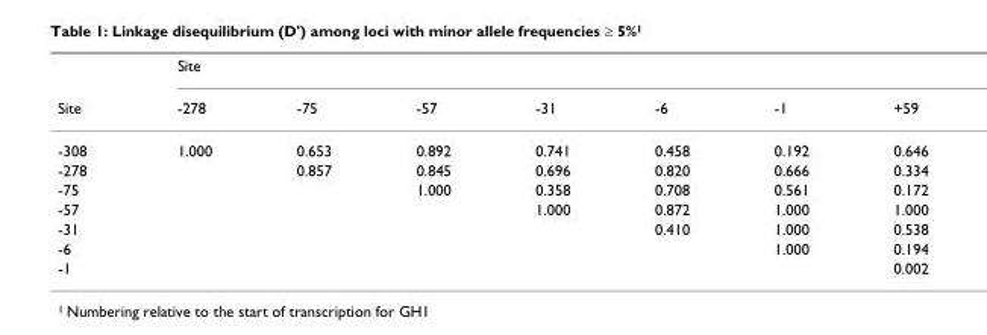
<table><thead><tr><td rowspan="2">Site</td><td colspan="7">Site</td></tr><tr><td>-278</td><td>-75</td><td>-57</td><td>-31</td><td>-6</td><td>-1</td><td>+59</td></tr></thead><tbody><tr><td>-308</td><td>1.000</td><td>0.653</td><td>0.892</td><td>0.741</td><td>0.458</td><td>0.192</td><td>0.646</td></tr><tr><td>-278</td><td></td><td>0.857</td><td>0.845</td><td>0.696</td><td>0.820</td><td>0.666</td><td>0.334</td></tr><tr><td>-75</td><td></td><td></td><td>1.000</td><td>0.358</td><td>0.708</td><td>0.561</td><td>0.172</td></tr><tr><td>-57</td><td></td><td></td><td></td><td>1.000</td><td>0.872</td><td>1.000</td><td>1.000</td></tr><tr><td>-31</td><td></td><td></td><td></td><td></td><td>0.410</td><td>1.000</td><td>0.538</td></tr><tr><td>-6</td><td></td><td></td><td></td><td></td><td></td><td>1.000</td><td>0.194</td></tr><tr><td>-1</td><td></td><td></td><td></td><td></td><td></td><td></td><td>0.002</td></tr></tbody></table>